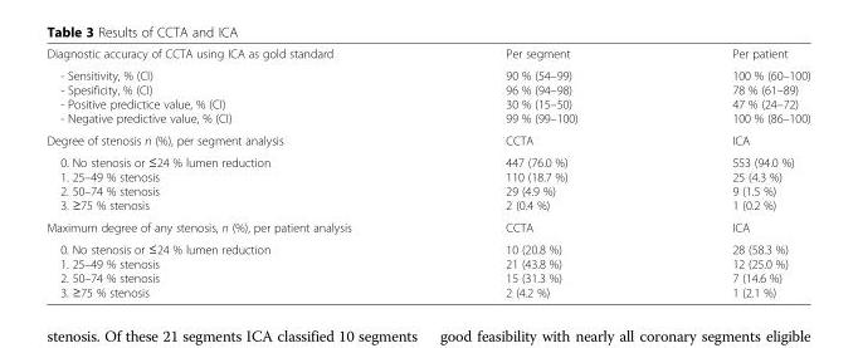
<table><tbody><tr><td>Diagnostic accuracy of CCTA using ICA as gold standard</td><td>Per segment</td><td>Per patient</td></tr><tr><td>- Sensitivity, % (CI) - Spesificity, % (CI) - Positive predictice value, % (CI) - Negative predictive value, % (CI)</td><td>90 % (54–99) 96 % (94–98) 30 % (15–50) 99 % (99–100)</td><td>100 % (60–100) 78 % (61–89) 47 % (24–72) 100 % (86–100)</td></tr><tr><td>Degree of stenosis n (%), per segment analysis</td><td>CCTA</td><td>ICA</td></tr><tr><td>0. No stenosis or ≤24 % lumen reduction 1. 25–49 % stenosis 2. 50–74 % stenosis 3. ≥75 % stenosis</td><td>447 (76.0 %) 110 (18.7 %) 29 (4.9 %) 2 (0.4 %)</td><td>553 (94.0 %) 25 (4.3 %) 9 (1.5 %) 1 (0.2 %)</td></tr><tr><td>Maximum degree of any stenosis, n (%), per patient analysis</td><td>CCTA</td><td>ICA</td></tr><tr><td>0. No stenosis or ≤24 % lumen reduction 1. 25–49 % stenosis 2. 50–74 % stenosis 3. ≥75 % stenosis</td><td>10 (20.8 %) 21 (43.8 %) 15 (31.3 %) 2 (4.2 %)</td><td>28 (58.3 %) 12 (25.0 %) 7 (14.6 %) 1 (2.1 %)</td></tr></tbody></table>